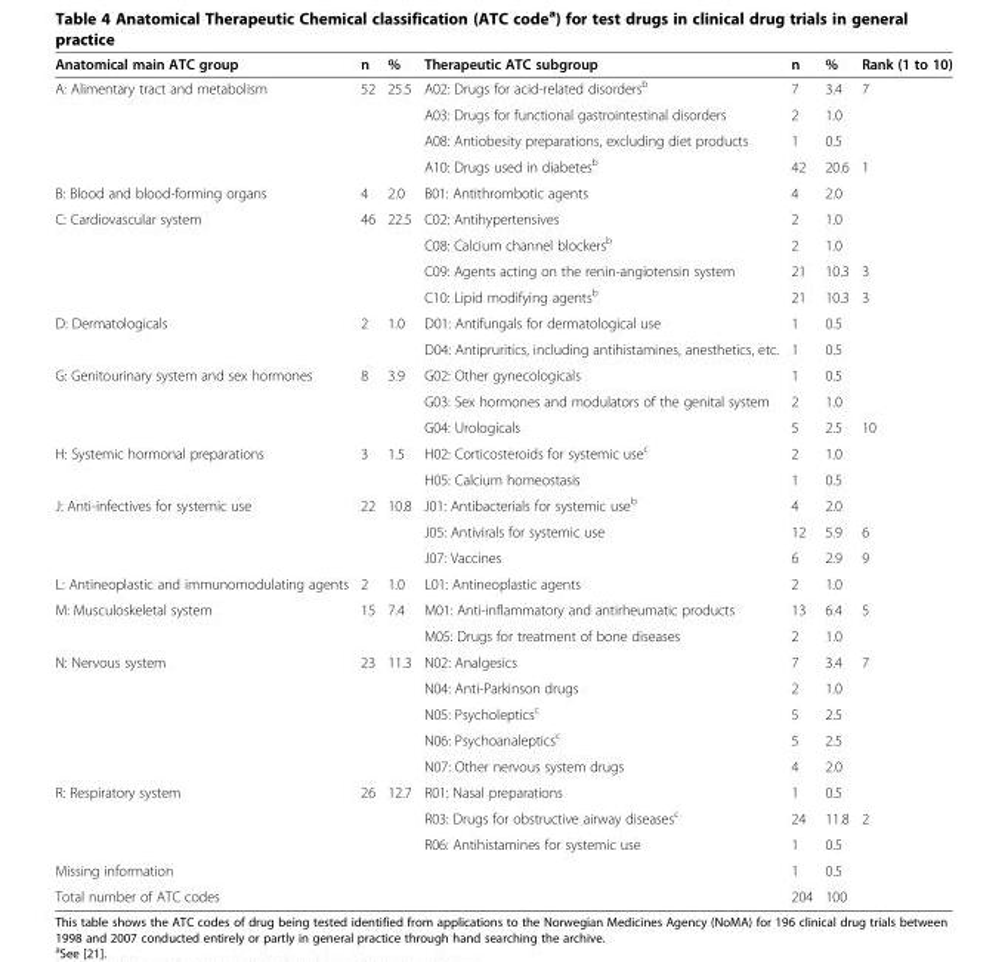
<table><thead><tr><td>Anatomical main ATC group</td><td>n</td><td>%</td><td>Therapeutic ATC subgroup</td><td>n</td><td>%</td><td>Rank (1 to 10)</td></tr></thead><tbody><tr><td rowspan="4">A: Alimentary tract and metabolism</td><td>52</td><td>25.5</td><td>A02: Drugs for acid-related disorders<sup>b</sup></td><td>7</td><td>3.4</td><td>7</td></tr><tr><td></td><td></td><td>A03: Drugs for functional gastrointestinal disorders</td><td>2</td><td>1.0</td><td></td></tr><tr><td></td><td></td><td>A08: Antiobesity preparations, excluding diet products</td><td>1</td><td>0.5</td><td></td></tr><tr><td></td><td></td><td>A10: Drugs used in diabetes<sup>b</sup></td><td>42</td><td>20.6</td><td>1</td></tr><tr><td>B: Blood and blood-forming organs</td><td>4</td><td>2.0</td><td>B01: Antithrombotic agents</td><td>4</td><td>2.0</td><td></td></tr><tr><td rowspan="4">C: Cardiovascular system</td><td>46</td><td>22.5</td><td>C02: Antihypertensives</td><td>2</td><td>1.0</td><td></td></tr><tr><td></td><td></td><td>C08: Calcium channel blockers<sup>b</sup></td><td>2</td><td>1.0</td><td></td></tr><tr><td></td><td></td><td>C09: Agents acting on the renin-angiotensin system</td><td>21</td><td>10.3</td><td>3</td></tr><tr><td></td><td></td><td>C10: Lipid modifying agents<sup>b</sup></td><td>21</td><td>10.3</td><td>3</td></tr><tr><td rowspan="2">D: Dermatologicals</td><td>2</td><td>1.0</td><td>D01: Antifungals for dermatological use</td><td>1</td><td>0.5</td><td></td></tr><tr><td></td><td></td><td>D04: Antipruritics, including antihistamines, anesthetics, etc.</td><td>1</td><td>0.5</td><td></td></tr><tr><td rowspan="3">G: Genitourinary system and sex hormones</td><td>8</td><td>3.9</td><td>G02: Other gynecologicals</td><td>1</td><td>0.5</td><td></td></tr><tr><td></td><td></td><td>G03: Sex hormones and modulators of the genital system</td><td>2</td><td>1.0</td><td></td></tr><tr><td></td><td></td><td>G04: Urologicals</td><td>5</td><td>2.5</td><td>10</td></tr><tr><td rowspan="2">H: Systemic hormonal preparations</td><td>3</td><td>1.5</td><td>H02: Corticosteroids for systemic use<sup>c</sup></td><td>2</td><td>1.0</td><td></td></tr><tr><td></td><td></td><td>H05: Calcium homeostasis</td><td>1</td><td>0.5</td><td></td></tr><tr><td rowspan="3">J: Anti-infectives for systemic use</td><td>22</td><td>10.8</td><td>J01: Antibacterials for systemic use<sup>b</sup></td><td>4</td><td>2.0</td><td></td></tr><tr><td></td><td></td><td>J05: Antivirals for systemic use</td><td>12</td><td>5.9</td><td>6</td></tr><tr><td></td><td></td><td>J07: Vaccines</td><td>6</td><td>2.9</td><td>9</td></tr><tr><td>L: Antineoplastic and immunomodulating agents</td><td>2</td><td>1.0</td><td>L01: Antineoplastic agents</td><td>2</td><td>1.0</td><td></td></tr><tr><td rowspan="2">M: Musculoskeletal system</td><td>15</td><td>7.4</td><td>M01: Anti-inflammatory and antirheumatic products</td><td>13</td><td>6.4</td><td>5</td></tr><tr><td></td><td></td><td>M05: Drugs for treatment of bone diseases</td><td>2</td><td>1.0</td><td></td></tr><tr><td rowspan="5">N: Nervous system</td><td>23</td><td>11.3</td><td>N02: Analgesics</td><td>7</td><td>3.4</td><td>7</td></tr><tr><td></td><td></td><td>N04: Anti-Parkinson drugs</td><td>2</td><td>1.0</td><td></td></tr><tr><td></td><td></td><td>N05: Psycholeptics<sup>c</sup></td><td>5</td><td>2.5</td><td></td></tr><tr><td></td><td></td><td>N06: Psychoanaleptics<sup>c</sup></td><td>5</td><td>2.5</td><td></td></tr><tr><td></td><td></td><td>N07: Other nervous system drugs</td><td>4</td><td>2.0</td><td></td></tr><tr><td rowspan="3">R: Respiratory system</td><td>26</td><td>12.7</td><td>R01: Nasal preparations</td><td>1</td><td>0.5</td><td></td></tr><tr><td></td><td></td><td>R03: Drugs for obstructive airway diseases<sup>c</sup></td><td>24</td><td>11.8</td><td>2</td></tr><tr><td></td><td></td><td>R06: Antihistamines for systemic use</td><td>1</td><td>0.5</td><td></td></tr><tr><td>Missing information</td><td></td><td></td><td></td><td>1</td><td>0.5</td><td></td></tr><tr><td>Total number of ATC codes</td><td></td><td></td><td></td><td>204</td><td>100</td><td></td></tr></tbody></table>